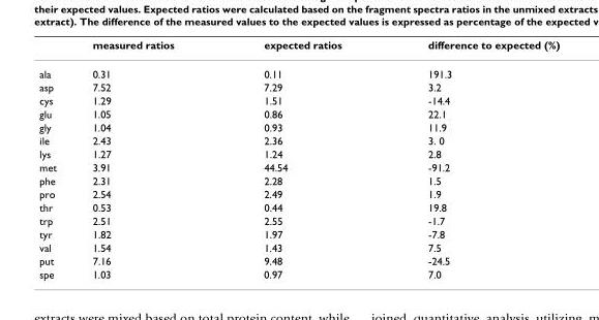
<table><thead><tr><td></td><td>measured ratios</td><td>expected ratios</td><td>difference to expected (%)</td></tr></thead><tbody><tr><td>ala</td><td>0.31</td><td>0.11</td><td>191.3</td></tr><tr><td>asp</td><td>7.52</td><td>7.29</td><td>3.2</td></tr><tr><td>cys</td><td>1.29</td><td>1.51</td><td>-14.4</td></tr><tr><td>glu</td><td>1.05</td><td>0.86</td><td>22.1</td></tr><tr><td>gly</td><td>1.04</td><td>0.93</td><td>11.9</td></tr><tr><td>ile</td><td>2.43</td><td>2.36</td><td>3. 0</td></tr><tr><td>lys</td><td>1.27</td><td>1.24</td><td>2.8</td></tr><tr><td>met</td><td>3.91</td><td>44.54</td><td>-91.2</td></tr><tr><td>phe</td><td>2.31</td><td>2.28</td><td>1.5</td></tr><tr><td>pro</td><td>2.54</td><td>2.49</td><td>1.9</td></tr><tr><td>thr</td><td>0.53</td><td>0.44</td><td>19.8</td></tr><tr><td>trp</td><td>2.51</td><td>2.55</td><td>-1.7</td></tr><tr><td>tyr</td><td>1.82</td><td>1.97</td><td>-7.8</td></tr><tr><td>val</td><td>1.54</td><td>1.43</td><td>7.5</td></tr><tr><td>put</td><td>7.16</td><td>9.48</td><td>-24.5</td></tr><tr><td>spe</td><td>1.03</td><td>0.97</td><td>7.0</td></tr></tbody></table>